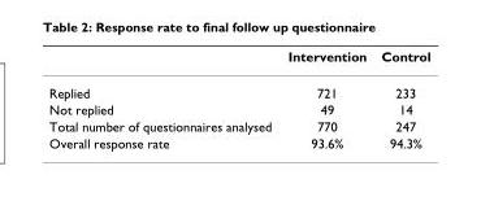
<table><thead><tr><td></td><td>Intervention</td><td>Control</td></tr></thead><tbody><tr><td>Replied</td><td>721</td><td>233</td></tr><tr><td>Not replied</td><td>49</td><td>14</td></tr><tr><td>Total number of questionnaires analysed</td><td>770</td><td>247</td></tr><tr><td>Overall response rate</td><td>93.6%</td><td>94.3%</td></tr></tbody></table>